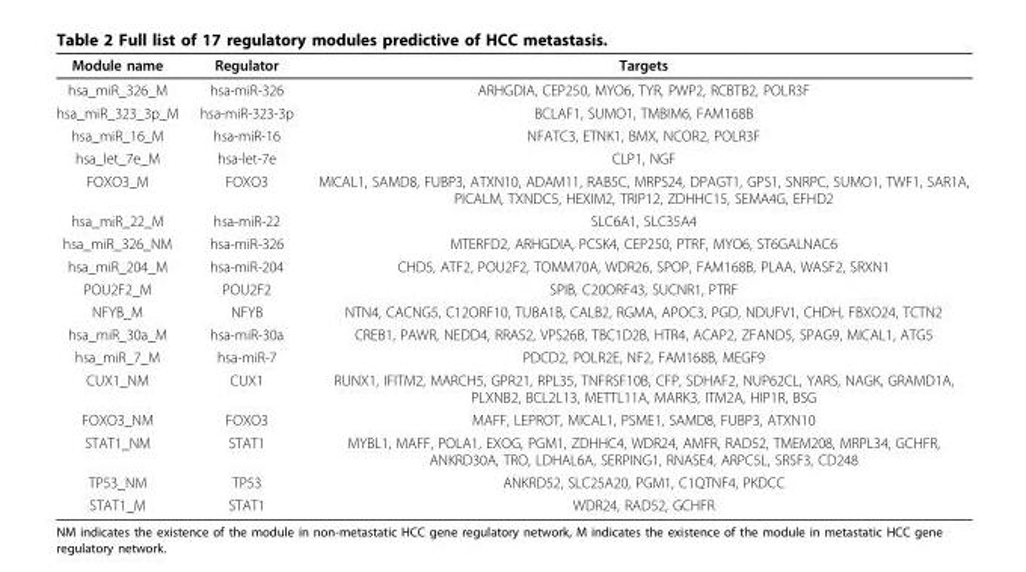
<table><thead><tr><td>Module name</td><td>Regulator</td><td>Targets</td></tr></thead><tbody><tr><td>hsa_miR_326_M</td><td>hsa-miR-326</td><td>ARHGDIA, CEP250, MYO6, TYR, PWP2, RCBTB2, POLR3F</td></tr><tr><td>hsa_miR_323_3p_M</td><td>hsa-miR-323-3p</td><td>BCLAF1, SUMO1, TMBIM6, FAM168B</td></tr><tr><td>hsa_miR_16_M</td><td>hsa-miR-16</td><td>NFATC3, ETNK1, BMX, NCOR2, POLR3F</td></tr><tr><td>hsa_let_7e_M</td><td>hsa-let-7e</td><td>CLP1, NGF</td></tr><tr><td>FOXO3_M</td><td>FOXO3</td><td>MICAL1, SAMD8, FUBP3, ATXN10, ADAM11, RAB5C, MRPS24, DPAGT1, GPS1, SNRPC, SUMO1, TWF1, SAR1A, PICALM, TXNDC5, HEXIM2, TRIP12, ZDHHC15, SEMA4G, EFHD2</td></tr><tr><td>hsa_miR_22_M</td><td>hsa-miR-22</td><td>SLC6A1, SLC35A4</td></tr><tr><td>hsa_miR_326_NM</td><td>hsa-miR-326</td><td>MTERFD2, ARHGDIA, PCSK4, CEP250, PTRF, MYO6, ST6GALNAC6</td></tr><tr><td>hsa_miR_204_M</td><td>hsa-miR-204</td><td>CHD5, ATF2, POU2F2, TOMM70A, WDR26, SPOP, FAM168B, PLAA, WASF2, SRXN1</td></tr><tr><td>POU2F2_M</td><td>POU2F2</td><td>SPIB, C20ORF43, SUCNR1, PTRF</td></tr><tr><td>NFYB_M</td><td>NFYB</td><td>NTN4, CACNG5, C12ORF10, TUBA1B, CALB2, RGMA, APOC3, PGD, NDUFV1, CHDH, FBXO24, TCTN2</td></tr><tr><td>hsa_miR_30a_M</td><td>hsa-miR-30a</td><td>CREB1, PAWR, NEDD4, RRAS2, VPS26B, TBC1D2B, HTR4, ACAP2, ZFAND5, SPAG9, MICAL1, ATG5</td></tr><tr><td>hsa_miR_7_M</td><td>hsa-miR-7</td><td>PDCD2, POLR2E, NF2, FAM168B, MEGF9</td></tr><tr><td>CUX1_NM</td><td>CUX1</td><td>RUNX1, IFITM2, MARCH5, GPR21, RPL35, TNFRSF10B, CFP, SDHAF2, NUP62CL, YARS, NAGK, GRAMD1A, PLXNB2, BCL2L13, METTL11A, MARK3, ITM2A, HIP1R, BSG</td></tr><tr><td>FOXO3_NM</td><td>FOXO3</td><td>MAFF, LEPROT, MICAL1, PSME1, SAMD8, FUBP3, ATXN10</td></tr><tr><td>STAT1_NM</td><td>STAT1</td><td>MYBL1, MAFF, POLA1, EXOG, PGM1, ZDHHC4, WDR24, AMFR, RAD52, TMEM208, MRPL34, GCHFR, ANKRD30A, TRO, LDHAL6A, SERPING1, RNASE4, ARPC5L, SRSF3, CD248</td></tr><tr><td>TP53_NM</td><td>TP53</td><td>ANKRD52, SLC25A20, PGM1, C1QTNF4, PKDCC</td></tr><tr><td>STAT1_M</td><td>STAT1</td><td>WDR24, RAD52, GCHFR</td></tr></tbody></table>